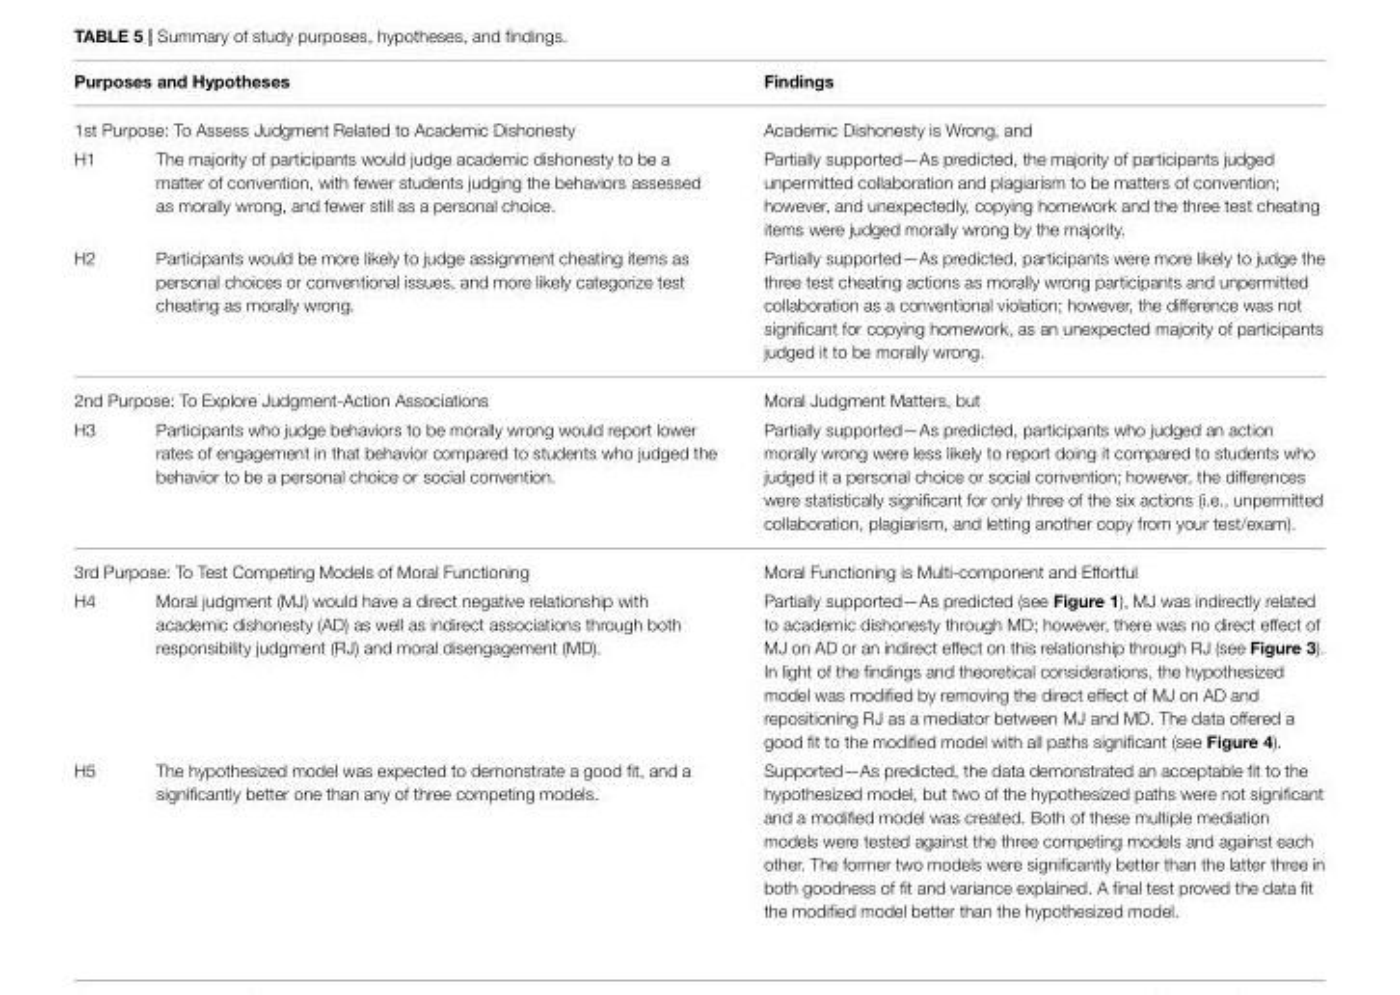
<table><thead><tr><td rowspan="2" colspan="2">Purposes and Hypotheses 1st Purpose: To Assess Judgment Related to Academic Dishonesty</td><td rowspan="3">Findings Academic Dishonesty is Wrong, and Partially supported—As predicted, the majority of participants judged unpermitted collaboration and plagiarism to be matters of convention; however, and unexpectedly, copying homework and the three test cheating items were judged morally wrong by the majority.</td></tr><tr></tr><tr><td>H1</td><td>The majority of participants would judge academic dishonesty to be a matter of convention, with fewer students judging the behaviors assessed as morally wrong, and fewer still as a personal choice.</td></tr></thead><tbody><tr><td>H2</td><td>Participants would be more likely to judge assignment cheating items as personal choices or conventional issues, and more likely categorize test cheating as morally wrong.</td><td>Partially supported—As predicted, participants were more likely to judge the three test cheating actions as morally wrong participants and unpermitted collaboration as a conventional violation; however, the difference was not significant for copying homework, as an unexpected majority of participants judged it to be morally wrong.</td></tr><tr><td colspan="2">2nd Purpose: To Explore Judgment-Action Associations</td><td>Moral Judgment Matters, but</td></tr><tr><td>H3</td><td>Participants who judge behaviors to be morally wrong would report lower rates of engagement in that behavior compared to students who judged the behavior to be a personal choice or social convention.</td><td>Partially supported—As predicted, participants who judged an action morally wrong were less likely to report doing it compared to students who judged it a personal choice or social convention; however, the differences were statistically significant for only three of the six actions (i.e., unpermitted collaboration, plagiarism, and letting another copy from your test/exam).</td></tr><tr><td colspan="2">3rd Purpose: To Test Competing Models of Moral Functioning</td><td>Moral Functioning is Multi-component and Effortful</td></tr><tr><td>H4</td><td>Moral judgment (MJ) would have a direct negative relationship with academic dishonesty (AD) as well as indirect associations through both responsibility judgment (RJ) and moral disengagement (MD).</td><td>Partially supported—As predicted (see Figure 1), MJ was indirectly related to academic dishonesty through MD; however, there was no direct effect of MJ on AD or an indirect effect on this relationship through RJ (see Figure 3). In light of the findings and theoretical considerations, the hypothesized model was modified by removing the direct effect of MJ on AD and repositioning RJ as a mediator between MJ and MD. The data offered a good fit to the modified model with all paths significant (see Figure 4).</td></tr><tr><td>H5</td><td>The hypothesized model was expected to demonstrate a good fit, and a significantly better one than any of three competing models.</td><td>Supported—As predicted, the data demonstrated an acceptable fit to the hypothesized model, but two of the hypothesized paths were not significant and a modified model was created. Both of these multiple mediation models were tested against the three competing models and against each other. The former two models were significantly better than the latter three in both goodness of fit and variance explained. A final test proved the data fit the modified model better than the hypothesized model.</td></tr></tbody></table>